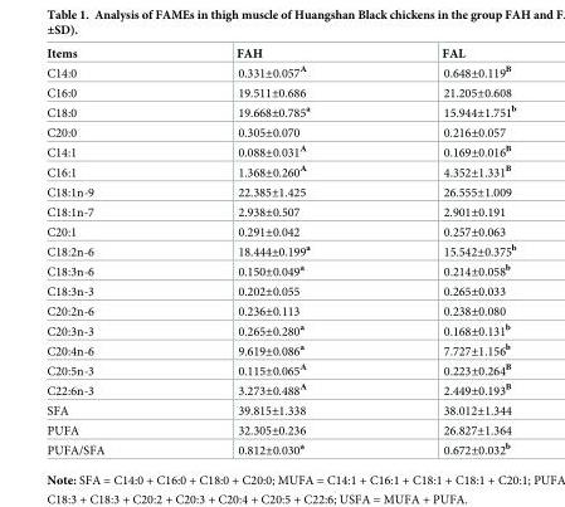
<table><thead><tr><td>Items</td><td>FAH</td><td>FAL</td></tr></thead><tbody><tr><td>C14:0</td><td>0.331±0.057<sup>A</sup></td><td>0.648±0.119<sup>B</sup></td></tr><tr><td>C16:0</td><td>19.511±0.686</td><td>21.205±0.608</td></tr><tr><td>C18:0</td><td>19.668±0.785<sup>a</sup></td><td>15.944±1.751<sup>b</sup></td></tr><tr><td>C20:0</td><td>0.305±0.070</td><td>0.216±0.057</td></tr><tr><td>C14:1</td><td>0.088±0.031<sup>A</sup></td><td>0.169±0.016<sup>B</sup></td></tr><tr><td>C16:1</td><td>1.368±0.260<sup>A</sup></td><td>4.352±1.331<sup>B</sup></td></tr><tr><td>C18:1n-9</td><td>22.385±1.425</td><td>26.555±1.009</td></tr><tr><td>C18:1n-7</td><td>2.938±0.507</td><td>2.901±0.191</td></tr><tr><td>C20:1</td><td>0.291±0.042</td><td>0.257±0.063</td></tr><tr><td>C18:2n-6</td><td>18.444±0.199<sup>a</sup></td><td>15.542±0.375<sup>b</sup></td></tr><tr><td>C18:3n-6</td><td>0.150±0.049<sup>a</sup></td><td>0.214±0.058<sup>b</sup></td></tr><tr><td>C18:3n-3</td><td>0.202±0.055</td><td>0.265±0.033</td></tr><tr><td>C20:2n-6</td><td>0.236±0.113</td><td>0.238±0.080</td></tr><tr><td>C20:3n-3</td><td>0.265±0.280<sup>a</sup></td><td>0.168±0.131<sup>b</sup></td></tr><tr><td>C20:4n-6</td><td>9.619±0.086<sup>a</sup></td><td>7.727±1.156<sup>b</sup></td></tr><tr><td>C20:5n-3</td><td>0.115±0.065<sup>A</sup></td><td>0.223±0.264<sup>B</sup></td></tr><tr><td>C22:6n-3</td><td>3.273±0.488<sup>A</sup></td><td>2.449±0.193<sup>B</sup></td></tr><tr><td>SFA</td><td>39.815±1.338</td><td>38.012±1.344</td></tr><tr><td>PUFA</td><td>32.305±0.236</td><td>26.827±1.364</td></tr><tr><td>PUFA/SFA</td><td>0.812±0.030<sup>a</sup></td><td>0.672±0.032<sup>b</sup></td></tr></tbody></table>